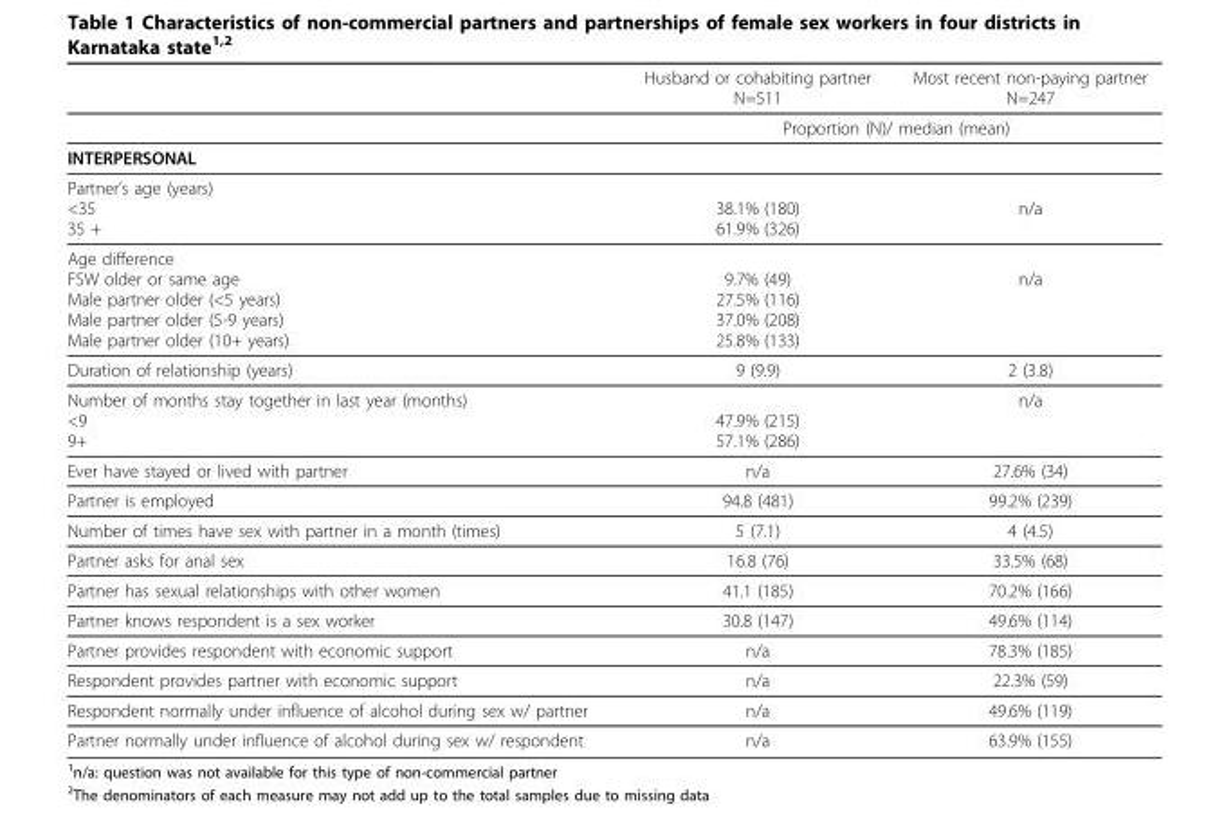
<table><thead><tr><td></td><td>Husband or cohabiting partner N=511</td><td>Most recent non-paying partner N=247</td></tr></thead><tbody><tr><td></td><td colspan="2">Proportion (N)/ median (mean)</td></tr><tr><td colspan="3">INTERPERSONAL</td></tr><tr><td>Partner’s age (years) &lt;35 35 +</td><td>38.1% (180) 61.9% (326)</td><td>n/a</td></tr><tr><td>Age difference FSW older or same age Male partner older (&lt;5 years) Male partner older (5-9 years) Male partner older (10+ years)</td><td>9.7% (49) 27.5% (116) 37.0% (208) 25.8% (133)</td><td>n/a</td></tr><tr><td>Duration of relationship (years)</td><td>9 (9.9)</td><td>2 (3.8)</td></tr><tr><td>Number of months stay together in last year (months) &lt;9 9+</td><td>47.9% (215) 57.1% (286)</td><td>n/a</td></tr><tr><td>Ever have stayed or lived with partner</td><td>n/a</td><td>27.6% (34)</td></tr><tr><td>Partner is employed</td><td>94.8 (481)</td><td>99.2% (239)</td></tr><tr><td>Number of times have sex with partner in a month (times)</td><td>5 (7.1)</td><td>4 (4.5)</td></tr><tr><td>Partner asks for anal sex</td><td>16.8 (76)</td><td>33.5% (68)</td></tr><tr><td>Partner has sexual relationships with other women</td><td>41.1 (185)</td><td>70.2% (166)</td></tr><tr><td>Partner knows respondent is a sex worker</td><td>30.8 (147)</td><td>49.6% (114)</td></tr><tr><td>Partner provides respondent with economic support</td><td>n/a</td><td>78.3% (185)</td></tr><tr><td>Respondent provides partner with economic support</td><td>n/a</td><td>22.3% (59)</td></tr><tr><td>Respondent normally under influence of alcohol during sex w/ partner</td><td>n/a</td><td>49.6% (119)</td></tr><tr><td>Partner normally under influence of alcohol during sex w/ respondent</td><td>n/a</td><td>63.9% (155)</td></tr></tbody></table>